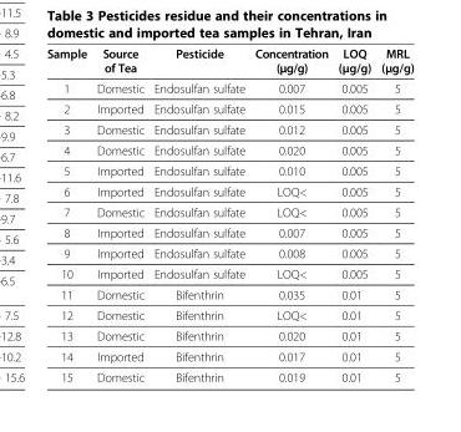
<table><thead><tr><td>Sample</td><td>Source of Tea</td><td>Pesticide</td><td>Concentration (μg/g)</td><td>LOQ (μg/g)</td><td>MRL (μg/g)</td></tr></thead><tbody><tr><td>1</td><td>Domestic</td><td>Endosulfan sulfate</td><td>0.007</td><td>0.005</td><td>5</td></tr><tr><td>2</td><td>Imported</td><td>Endosulfan sulfate</td><td>0.015</td><td>0.005</td><td>5</td></tr><tr><td>3</td><td>Domestic</td><td>Endosulfan sulfate</td><td>0.012</td><td>0.005</td><td>5</td></tr><tr><td>4</td><td>Domestic</td><td>Endosulfan sulfate</td><td>0.020</td><td>0.005</td><td>5</td></tr><tr><td>5</td><td>Imported</td><td>Endosulfan sulfate</td><td>0.010</td><td>0.005</td><td>5</td></tr><tr><td>6</td><td>Imported</td><td>Endosulfan sulfate</td><td>LOQ&lt;</td><td>0.005</td><td>5</td></tr><tr><td>7</td><td>Domestic</td><td>Endosulfan sulfate</td><td>LOQ&lt;</td><td>0.005</td><td>5</td></tr><tr><td>8</td><td>Imported</td><td>Endosulfan sulfate</td><td>0.007</td><td>0.005</td><td>5</td></tr><tr><td>9</td><td>Imported</td><td>Endosulfan sulfate</td><td>0.008</td><td>0.005</td><td>5</td></tr><tr><td>10</td><td>Imported</td><td>Endosulfan sulfate</td><td>LOQ&lt;</td><td>0.005</td><td>5</td></tr><tr><td>11</td><td>Domestic</td><td>Bifenthrin</td><td>0.035</td><td>0.01</td><td>5</td></tr><tr><td>12</td><td>Domestic</td><td>Bifenthrin</td><td>LOQ&lt;</td><td>0.01</td><td>5</td></tr><tr><td>13</td><td>Domestic</td><td>Bifenthrin</td><td>0.020</td><td>0.01</td><td>5</td></tr><tr><td>14</td><td>Imported</td><td>Bifenthrin</td><td>0.017</td><td>0.01</td><td>5</td></tr><tr><td>15</td><td>Domestic</td><td>Bifenthrin</td><td>0.019</td><td>0.01</td><td>5</td></tr></tbody></table>